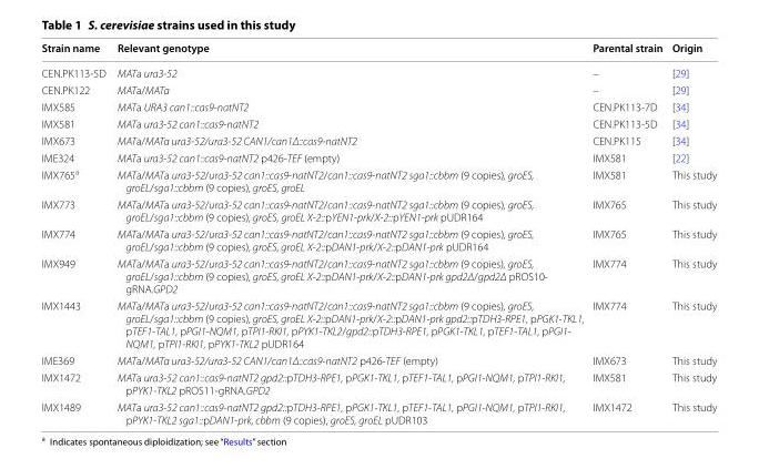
<table><thead><tr><td>Strain name</td><td>Relevant genotype</td><td>Parental strain</td><td>Origin</td></tr></thead><tbody><tr><td>CEN.PK113-5D</td><td>MATa ura3-52</td><td>–</td><td>[29]</td></tr><tr><td>CEN.PK122</td><td>MATa/MATα</td><td>–</td><td>[29]</td></tr><tr><td>IMX585</td><td>MATa URA3 can1::cas9-natNT2</td><td>CEN.PK113-7D</td><td>[34]</td></tr><tr><td>IMX581</td><td>MATa ura3-52 can1::cas9-natNT2</td><td>CEN.PK113-5D</td><td>[34]</td></tr><tr><td>IMX673</td><td>MATa/MATα ura3-52/ura3-52 CAN1/can1Δ::cas9-natNT2</td><td>CEN.PK115</td><td>[34]</td></tr><tr><td>IME324</td><td>MATa ura3-52 can1::cas9-natNT2 p426-TEF (empty)</td><td>IMX581</td><td>[22]</td></tr><tr><td>IMX765<sup>a</sup></td><td>MATa/MATa ura3-52/ura3-52 can1::cas9-natNT2/can1::cas9-natNT2 sga1::cbbm (9 copies), groES, groEL/sga1::cbbm (9 copies), groES, groEL</td><td>IMX581</td><td>This study</td></tr><tr><td>IMX773</td><td>MATa/MATa ura3-52/ura3-52 can1::cas9-natNT2/can1::cas9-natNT2 sga1::cbbm (9 copies), groES, groEL/sga1::cbbm (9 copies), groES, groEL X-2::pYEN1-prk/X-2::pYEN1-prk pUDR164</td><td>IMX765</td><td>This study</td></tr><tr><td>IMX774</td><td>MATa/MATa ura3-52/ura3-52 can1::cas9-natNT2/can1::cas9-natNT2 sga1::cbbm (9 copies), groES, groEL/sga1::cbbm (9 copies), groES, groEL X-2::pDAN1-prk/X-2::pDAN1-prk pUDR164</td><td>IMX765</td><td>This study</td></tr><tr><td>IMX949</td><td>MATa/MATa ura3-52/ura3-52 can1::cas9-natNT2/can1::cas9-natNT2 sga1::cbbm (9 copies), groES, groEL/sga1::cbbm (9 copies), groES, groEL X-2::pDAN1-prk/X-2::pDAN1-prk gpd2Δ/gpd2Δ pROS10- gRNA.GPD2</td><td>IMX774</td><td>This study</td></tr><tr><td>IMX1443</td><td>MATa/MATa ura3-52/ura3-52 can1::cas9-natNT2/can1::cas9-natNT2 sga1::cbbm (9 copies), groES, groEL/sga1::cbbm (9 copies), groES, groEL X-2::pDAN1-prk/X-2::pDAN1-prk gpd2::pTDH3-RPE1, pPGK1-TKL1, pTEF1-TAL1, pPGI1-NQM1, pTPI1-RKI1, pPYK1-TKL2/gpd2::pTDH3-RPE1, pPGK1-TKL1, pTEF1-TAL1, pPGI1- NQM1, pTPI1-RKI1, pPYK1-TKL2 pUDR164</td><td>IMX774</td><td>This study</td></tr><tr><td>IME369</td><td>MATa/MATα ura3-52/ura3-52 CAN1/can1Δ::cas9-natNT2 p426-TEF (empty)</td><td>IMX673</td><td>This study</td></tr><tr><td>IMX1472</td><td>MATa ura3-52 can1::cas9-natNT2 gpd2::pTDH3-RPE1, pPGK1-TKL1, pTEF1-TAL1, pPGI1-NQM1, pTPI1-RKI1, pPYK1-TKL2 pROS11-gRNA.GPD2</td><td>IMX581</td><td>This study</td></tr><tr><td>IMX1489</td><td>MATa ura3-52 can1::cas9-natNT2 gpd2::pTDH3-RPE1, pPGK1-TKL1, pTEF1-TAL1, pPGI1-NQM1, pTPI1-RKI1, pPYK1-TKL2 sga1::pDAN1-prk, cbbm (9 copies), groES, groEL pUDR103</td><td>IMX1472</td><td>This study</td></tr></tbody></table>